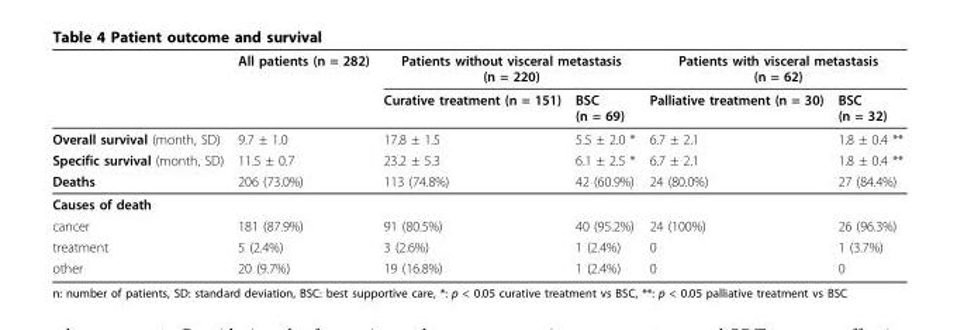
<table><thead><tr><td rowspan="2"></td><td rowspan="2">All patients (n = 282)</td><td colspan="2">Patients without visceral metastasis (n = 220)</td><td colspan="2">Patients with visceral metastasis (n = 62)</td></tr><tr><td>Curative treatment (n = 151)</td><td>BSC (n = 69)</td><td>Palliative treatment (n = 30)</td><td>BSC (n = 32)</td></tr></thead><tbody><tr><td>Overall survival (month, SD)</td><td>9.7 ± 1.0</td><td>17.8 ± 1.5</td><td>5.5 ± 2.0 *</td><td>6.7 ± 2.1</td><td>1.8 ± 0.4 **</td></tr><tr><td>Specific survival (month, SD)</td><td>11.5 ± 0.7</td><td>23.2 ± 5.3</td><td>6.1 ± 2.5 *</td><td>6.7 ± 2.1</td><td>1.8 ± 0.4 **</td></tr><tr><td>Deaths</td><td>206 (73.0%)</td><td>113 (74.8%)</td><td>42 (60.9%)</td><td>24 (80.0%)</td><td>27 (84.4%)</td></tr><tr><td colspan="6">Causes of death</td></tr><tr><td>cancer</td><td>181 (87.9%)</td><td>91 (80.5%)</td><td>40 (95.2%)</td><td>24 (100%)</td><td>26 (96.3%)</td></tr><tr><td>treatment</td><td>5 (2.4%)</td><td>3 (2.6%)</td><td>1 (2.4%)</td><td>0</td><td>1 (3.7%)</td></tr><tr><td>other</td><td>20 (9.7%)</td><td>19 (16.8%)</td><td>1 (2.4%)</td><td>0</td><td>0</td></tr></tbody></table>